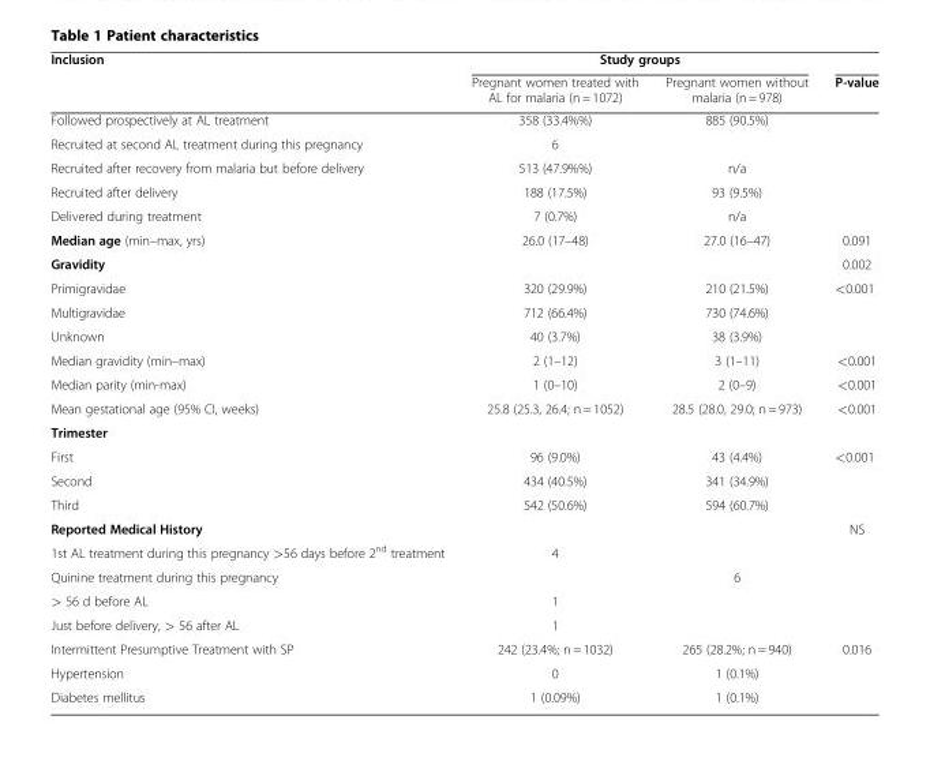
<table><thead><tr><td rowspan="2">Inclusion</td><td colspan="2">Study groups</td><td rowspan="2">P-value</td></tr><tr><td>Pregnant women treated with AL for malaria (n = 1072)</td><td>Pregnant women without malaria (n = 978)</td></tr></thead><tbody><tr><td>Followed prospectively at AL treatment</td><td>358 (33.4%%)</td><td>885 (90.5%)</td><td></td></tr><tr><td>Recruited at second AL treatment during this pregnancy</td><td>6</td><td></td><td></td></tr><tr><td>Recruited after recovery from malaria but before delivery</td><td>513 (47.9%%)</td><td>n/a</td><td rowspan="3"></td></tr><tr><td>Recruited after delivery</td><td>188 (17.5%)</td><td>93 (9.5%)</td></tr><tr><td>Delivered during treatment</td><td>7 (0.7%)</td><td>n/a</td></tr><tr><td>Median age (min–max, yrs)</td><td>26.0 (17–48)</td><td>27.0 (16–47)</td><td>0.091</td></tr><tr><td>Gravidity</td><td></td><td></td><td>0.002</td></tr><tr><td>Primigravidae</td><td>320 (29.9%)</td><td>210 (21.5%)</td><td>&lt;0.001</td></tr><tr><td>Multigravidae</td><td>712 (66.4%)</td><td>730 (74.6%)</td><td></td></tr><tr><td>Unknown</td><td>40 (3.7%)</td><td>38 (3.9%)</td><td></td></tr><tr><td>Median gravidity (min–max)</td><td>2 (1–12)</td><td>3 (1–11)</td><td>&lt;0.001</td></tr><tr><td>Median parity (min-max)</td><td>1 (0–10)</td><td>2 (0–9)</td><td>&lt;0.001</td></tr><tr><td>Mean gestational age (95% CI, weeks)</td><td>25.8 (25.3, 26.4; n = 1052)</td><td>28.5 (28.0, 29.0; n = 973)</td><td>&lt;0.001</td></tr><tr><td colspan="4">Trimester</td></tr><tr><td>First</td><td>96 (9.0%)</td><td>43 (4.4%)</td><td>&lt;0.001</td></tr><tr><td>Second</td><td>434 (40.5%)</td><td>341 (34.9%)</td><td></td></tr><tr><td>Third</td><td>542 (50.6%)</td><td>594 (60.7%)</td><td></td></tr><tr><td>Reported Medical History</td><td></td><td></td><td>NS</td></tr><tr><td>1st AL treatment during this pregnancy &gt;56 days before 2<sup>nd</sup> treatment</td><td>4</td><td></td><td></td></tr><tr><td>Quinine treatment during this pregnancy</td><td></td><td>6</td><td></td></tr><tr><td>&gt; 56 d before AL</td><td>1</td><td></td><td></td></tr><tr><td>Just before delivery, &gt; 56 after AL</td><td>1</td><td></td><td></td></tr><tr><td>Intermittent Presumptive Treatment with SP</td><td>242 (23.4%; n = 1032)</td><td>265 (28.2%; n = 940)</td><td>0.016</td></tr><tr><td>Hypertension</td><td>0</td><td>1 (0.1%)</td><td></td></tr><tr><td>Diabetes mellitus</td><td>1 (0.09%)</td><td>1 (0.1%)</td><td></td></tr></tbody></table>